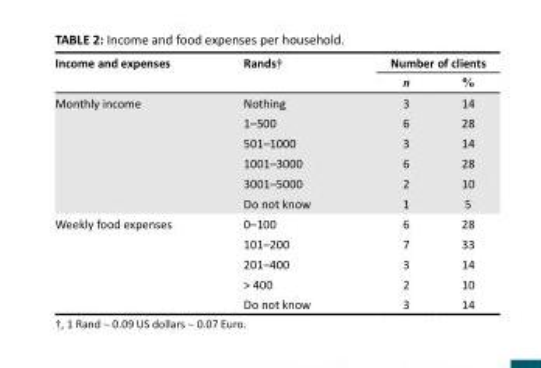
<table><thead><tr><td rowspan="2">Income and expenses</td><td rowspan="2">Rands†</td><td colspan="2">Number of clients</td></tr><tr><td>n</td><td>%</td></tr></thead><tbody><tr><td rowspan="6">Monthly income</td><td>Nothing</td><td>3</td><td>14</td></tr><tr><td>1–500</td><td>6</td><td>28</td></tr><tr><td>501–1000</td><td>3</td><td>14</td></tr><tr><td>1001–3000</td><td>6</td><td>28</td></tr><tr><td>3001–5000</td><td>2</td><td>10</td></tr><tr><td>Do not know</td><td>1</td><td>5</td></tr><tr><td rowspan="5">Weekly food expenses</td><td>0–100</td><td>6</td><td>28</td></tr><tr><td>101–200</td><td>7</td><td>33</td></tr><tr><td>201–400</td><td>3</td><td>14</td></tr><tr><td>&gt; 400</td><td>2</td><td>10</td></tr><tr><td>Do not know</td><td>3</td><td>14</td></tr></tbody></table>